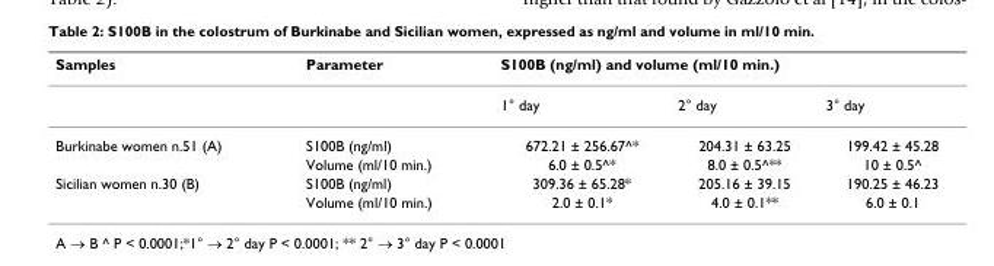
<table><thead><tr><td rowspan="2">Samples</td><td rowspan="2">Parameter</td><td colspan="3">S100B (ng/ml) and volume (ml/10 min.)</td></tr><tr><td>1° day</td><td>2° day</td><td>3° day</td></tr></thead><tbody><tr><td rowspan="2">Burkinabe women n.51 (A)</td><td>S100B (ng/ml)</td><td>672.21 ± 256.67^*</td><td>204.31 ± 63.25</td><td>199.42 ± 45.28</td></tr><tr><td>Volume (ml/10 min.)</td><td>6.0 ± 0.5^*</td><td>8.0 ± 0.5^**</td><td>10 ± 0.5^</td></tr><tr><td rowspan="2">Sicilian women n.30 (B)</td><td>S100B (ng/ml)</td><td>309.36 ± 65.28*</td><td>205.16 ± 39.15</td><td>190.25 ± 46.23</td></tr><tr><td>Volume (ml/10 min.)</td><td>2.0 ± 0.1*</td><td>4.0 ± 0.1**</td><td>6.0 ± 0.1</td></tr></tbody></table>